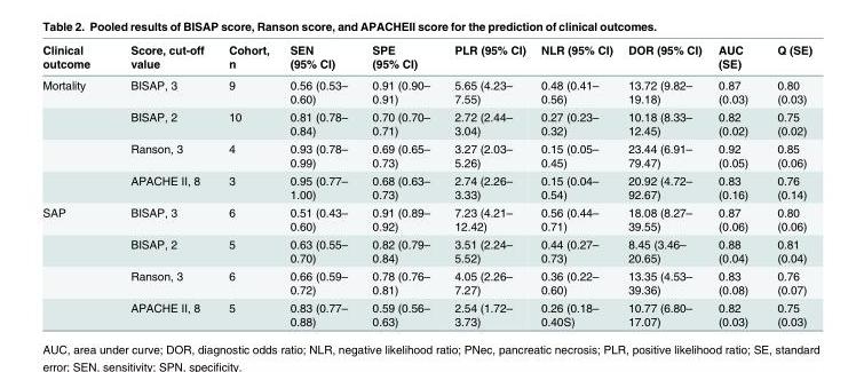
<table><thead><tr><td>Clinical outcome</td><td>Score, cut-off value</td><td>Cohort, n</td><td>SEN (95% CI)</td><td>SPE (95% CI)</td><td>PLR (95% CI)</td><td>NLR (95% CI)</td><td>DOR (95% CI)</td><td>AUC (SE)</td><td>Q (SE)</td></tr></thead><tbody><tr><td rowspan="4">Mortality</td><td>BISAP, 3</td><td>9</td><td>0.56 (0.53– 0.60)</td><td>0.91 (0.90– 0.91)</td><td>5.65 (4.23– 7.55)</td><td>0.48 (0.41– 0.56)</td><td>13.72 (9.82– 19.18)</td><td>0.87 (0.03)</td><td>0.80 (0.03)</td></tr><tr><td>BISAP, 2</td><td>10</td><td>0.81 (0.78– 0.84)</td><td>0.70 (0.70– 0.71)</td><td>2.72 (2.44– 3.04)</td><td>0.27 (0.23– 0.32)</td><td>10.18 (8.33– 12.45)</td><td>0.82 (0.02)</td><td>0.75 (0.02)</td></tr><tr><td>Ranson, 3</td><td>4</td><td>0.93 (0.78– 0.99)</td><td>0.69 (0.65– 0.73)</td><td>3.27 (2.03– 5.26)</td><td>0.15 (0.05– 0.45)</td><td>23.44 (6.91– 79.47)</td><td>0.92 (0.05)</td><td>0.85 (0.06)</td></tr><tr><td>APACHE II, 8</td><td>3</td><td>0.95 (0.77– 1.00)</td><td>0.68 (0.63– 0.73)</td><td>2.74 (2.26– 3.33)</td><td>0.15 (0.04– 0.54)</td><td>20.92 (4.72– 92.67)</td><td>0.83 (0.16)</td><td>0.76 (0.14)</td></tr><tr><td rowspan="4">SAP</td><td>BISAP, 3</td><td>6</td><td>0.51 (0.43– 0.60)</td><td>0.91 (0.89– 0.92)</td><td>7.23 (4.21– 12.42)</td><td>0.56 (0.44– 0.71)</td><td>18.08 (8.27– 39.55)</td><td>0.87 (0.06)</td><td>0.80 (0.06)</td></tr><tr><td>BISAP, 2</td><td>5</td><td>0.63 (0.55– 0.70)</td><td>0.82 (0.79– 0.84)</td><td>3.51 (2.24– 5.52)</td><td>0.44 (0.27– 0.73)</td><td>8.45 (3.46– 20.65)</td><td>0.88 (0.04)</td><td>0.81 (0.04)</td></tr><tr><td>Ranson, 3</td><td>6</td><td>0.66 (0.59– 0.72)</td><td>0.78 (0.76– 0.81)</td><td>4.05 (2.26– 7.27)</td><td>0.36 (0.22– 0.60)</td><td>13.35 (4.53– 39.36)</td><td>0.83 (0.08)</td><td>0.76 (0.07)</td></tr><tr><td>APACHE II, 8</td><td>5</td><td>0.83 (0.77– 0.88)</td><td>0.59 (0.56– 0.63)</td><td>2.54 (1.72– 3.73)</td><td>0.26 (0.18– 0.40S)</td><td>10.77 (6.80– 17.07)</td><td>0.82 (0.03)</td><td>0.75 (0.03)</td></tr></tbody></table>